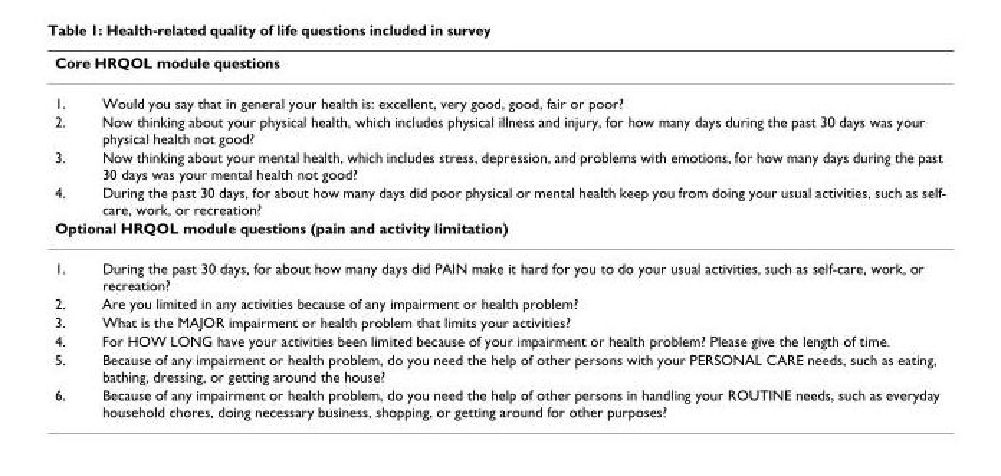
<table><thead><tr><td colspan="2">Core HRQOL module questions</td></tr><tr><td>1.</td><td>Would you say that in general your health is: excellent, very good, good, fair or poor?</td></tr></thead><tbody><tr><td>2.</td><td>Now thinking about your physical health, which includes physical illness and injury, for how many days during the past 30 days was your physical health not good?</td></tr><tr><td>3.</td><td>Now thinking about your mental health, which includes stress, depression, and problems with emotions, for how many days during the past 30 days was your mental health not good?</td></tr><tr><td>4.</td><td>During the past 30 days, for about how many days did poor physical or mental health keep you from doing your usual activities, such as self- care, work, or recreation?</td></tr><tr><td colspan="2">Optional HRQOL module questions (pain and activity limitation)</td></tr><tr><td>1.</td><td>During the past 30 days, for about how many days did PAIN make it hard for you to do your usual activities, such as self-care, work, or recreation?</td></tr><tr><td>2.</td><td>Are you limited in any activities because of any impairment or health problem?</td></tr><tr><td>3.</td><td>What is the MAJOR impairment or health problem that limits your activities?</td></tr><tr><td>4.</td><td>For HOW LONG have your activities been limited because of your impairment or health problem? Please give the length of time.</td></tr><tr><td>5.</td><td>Because of any impairment or health problem, do you need the help of other persons with your PERSONAL CARE needs, such as eating, bathing, dressing, or getting around the house?</td></tr><tr><td>6.</td><td>Because of any impairment or health problem, do you need the help of other persons in handling your ROUTINE needs, such as everyday household chores, doing necessary business, shopping, or getting around for other purposes?</td></tr></tbody></table>